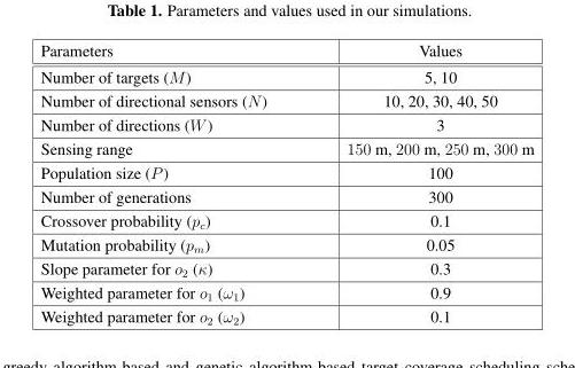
<table><thead><tr><td>Parameters</td><td>Values</td></tr></thead><tbody><tr><td>Number of targets (M)</td><td>5, 10</td></tr><tr><td>Number of directional sensors (N)</td><td>10, 20, 30, 40, 50</td></tr><tr><td>Number of directions (W)</td><td>3</td></tr><tr><td>Sensing range</td><td>150 m, 200 m, 250 m, 300 m</td></tr><tr><td>Population size (P)</td><td>100</td></tr><tr><td>Number of generations</td><td>300</td></tr><tr><td>Crossover probability (p<sub>c</sub>)</td><td>0.1</td></tr><tr><td>Mutation probability (p<sub>m</sub>)</td><td>0.05</td></tr><tr><td>Slope parameter for o<sub>2</sub> (κ)</td><td>0.3</td></tr><tr><td>Weighted parameter for o<sub>1</sub> (ω<sub>1</sub>)</td><td>0.9</td></tr><tr><td>Weighted parameter for o<sub>2</sub> (ω<sub>2</sub>)</td><td>0.1</td></tr></tbody></table>